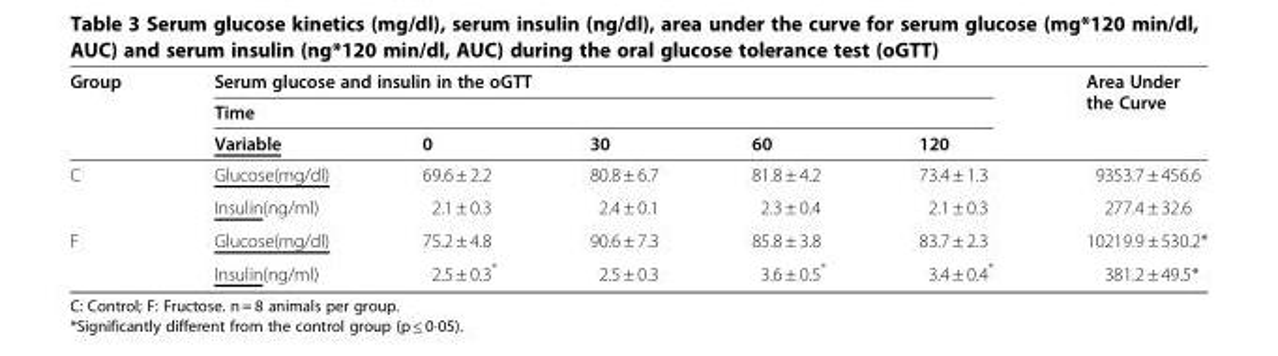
<table><thead><tr><td rowspan="3">Group</td><td rowspan="2" colspan="5">Serum glucose and insulin in the oGTT Time</td><td rowspan="3">Area Under the Curve</td></tr><tr></tr><tr><td>Variable</td><td>0</td><td>30</td><td>60</td><td>120</td></tr></thead><tbody><tr><td rowspan="2">C</td><td>Glucose(mg/dl)</td><td>69.6 ± 2.2</td><td>80.8 ± 6.7</td><td>81.8 ± 4.2</td><td>73.4 ± 1.3</td><td>9353.7 ± 456.6</td></tr><tr><td>Insulin(ng/ml)</td><td>2.1 ± 0.3</td><td>2.4 ± 0.1</td><td>2.3 ± 0.4</td><td>2.1 ± 0.3</td><td>277.4 ± 32.6</td></tr><tr><td rowspan="2">F</td><td>Glucose(mg/dl)</td><td>75.2 ± 4.8</td><td>90.6 ± 7.3</td><td>85.8 ± 3.8</td><td>83.7 ± 2.3</td><td>10219.9 ± 530.2*</td></tr><tr><td>Insulin(ng/ml)</td><td>2.5 ± 0.3*</td><td>2.5 ± 0.3</td><td>3.6 ± 0.5*</td><td>3.4 ± 0.4*</td><td>381.2 ± 49.5*</td></tr></tbody></table>